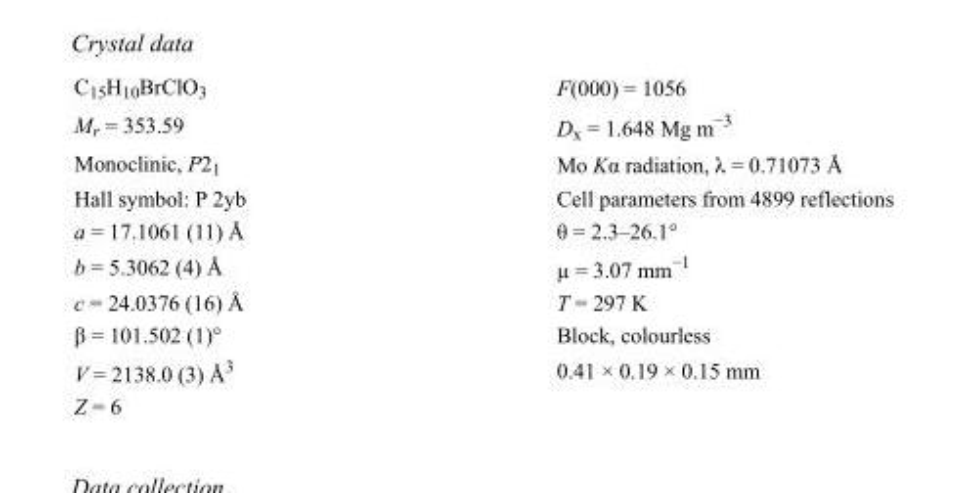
<table><tbody><tr><td>C<sub>15</sub>H<sub>10</sub>BrClO<sub>3</sub></td><td>F(000) = 1056</td></tr><tr><td>M<sub>r</sub> = 353.59</td><td>D<sub>x</sub> = 1.648 Mg m<sup>−3</sup></td></tr><tr><td>Monoclinic, P2<sub>1</sub></td><td>Mo Kα radiation, λ = 0.71073 Å</td></tr><tr><td>Hall symbol: P 2yb</td><td>Cell parameters from 4899 reflections</td></tr><tr><td>a = 17.1061 (11) Å</td><td>θ = 2.3–26.1°</td></tr><tr><td>b = 5.3062 (4) Å</td><td>µ = 3.07 mm<sup>−1</sup></td></tr><tr><td>c = 24.0376 (16) Å</td><td>T = 297 K</td></tr><tr><td>β = 101.502 (1)°</td><td>Block, colourless</td></tr><tr><td>V = 2138.0 (3) Å<sup>3</sup></td><td>0.41 × 0.19 × 0.15 mm</td></tr><tr><td>Z = 6</td><td></td></tr></tbody></table>